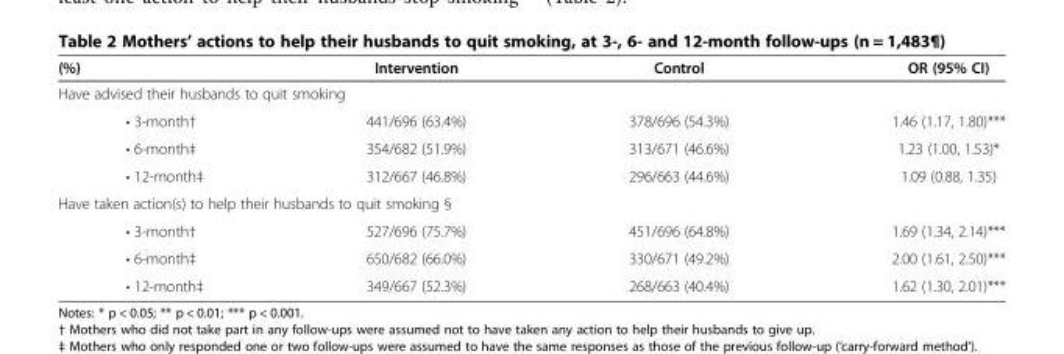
<table><thead><tr><td>(%)</td><td>Intervention</td><td>Control</td><td>OR (95% CI)</td></tr></thead><tbody><tr><td colspan="4">Have advised their husbands to quit smoking</td></tr><tr><td>• 3-month†</td><td>441/696 (63.4%)</td><td>378/696 (54.3%)</td><td>1.46 (1.17, 1.80)***</td></tr><tr><td>• 6-month‡</td><td>354/682 (51.9%)</td><td>313/671 (46.6%)</td><td>1.23 (1.00, 1.53)*</td></tr><tr><td>• 12-month‡</td><td>312/667 (46.8%)</td><td>296/663 (44.6%)</td><td>1.09 (0.88, 1.35)</td></tr><tr><td colspan="4">Have taken action(s) to help their husbands to quit smoking §</td></tr><tr><td>• 3-month†</td><td>527/696 (75.7%)</td><td>451/696 (64.8%)</td><td>1.69 (1.34, 2.14)***</td></tr><tr><td>• 6-month‡</td><td>650/682 (66.0%)</td><td>330/671 (49.2%)</td><td>2.00 (1.61, 2.50)***</td></tr><tr><td>• 12-month‡</td><td>349/667 (52.3%)</td><td>268/663 (40.4%)</td><td>1.62 (1.30, 2.01)***</td></tr></tbody></table>